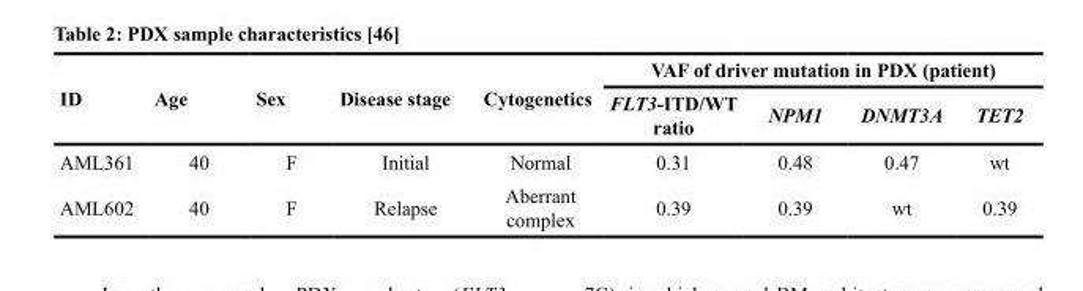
<table><thead><tr><td rowspan="2">ID</td><td rowspan="2">Age</td><td rowspan="2">Sex</td><td rowspan="2">Disease stage</td><td rowspan="2">Cytogenetics</td><td colspan="4">VAF of driver mutation in PDX (patient)</td></tr><tr><td>FLT3-ITD/WT ratio</td><td>NPM1</td><td>DNMT3A</td><td>TET2</td></tr></thead><tbody><tr><td>AML361</td><td>40</td><td>F</td><td>Initial</td><td>Normal</td><td>0.31</td><td>0.48</td><td>0.47</td><td>wt</td></tr><tr><td>AML602</td><td>40</td><td>F</td><td>Relapse</td><td>Aberrant complex</td><td>0.39</td><td>0.39</td><td>wt</td><td>0.39</td></tr></tbody></table>